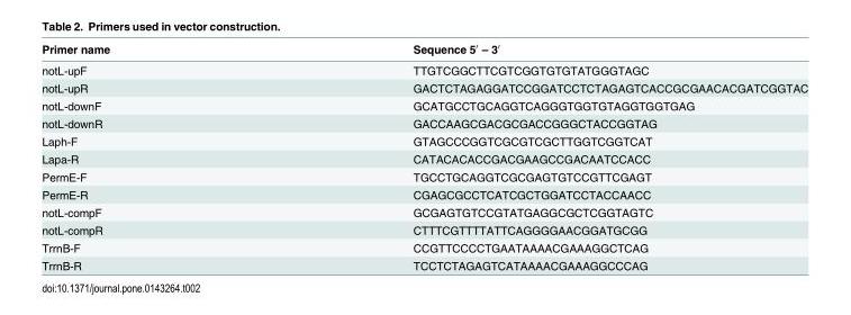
<table><thead><tr><td>Primer name</td><td>Sequence 5′ – 3′</td></tr></thead><tbody><tr><td>notL-upF</td><td>TTGTCGGCTTCGTCGGTGTGTATGGGTAGC</td></tr><tr><td>notL-upR</td><td>GACTCTAGAGGATCCGGATCCTCTAGAGTCACCGCGAACACGATCGGTAC</td></tr><tr><td>notL-downF</td><td>GCATGCCTGCAGGTCAGGGTGGTGTAGGTGGTGAG</td></tr><tr><td>notL-downR</td><td>GACCAAGCGACGCGACCGGGCTACCGGTAG</td></tr><tr><td>Laph-F</td><td>GTAGCCCGGTCGCGTCGCTTGGTCGGTCAT</td></tr><tr><td>Lapa-R</td><td>CATACACACCGACGAAGCCGACAATCCACC</td></tr><tr><td>PermE-F</td><td>TGCCTGCAGGTCGCGAGTGTCCGTTCGAGT</td></tr><tr><td>PermE-R</td><td>CGAGCGCCTCATCGCTGGATCCTACCAACC</td></tr><tr><td>notL-compF</td><td>GCGAGTGTCCGTATGAGGCGCTCGGTAGTC</td></tr><tr><td>notL-compR</td><td>CTTTCGTTTTATTCAGGGGAACGGATGCGG</td></tr><tr><td>TrrnB-F</td><td>CCGTTCCCCTGAATAAAACGAAAGGCTCAG</td></tr><tr><td>TrrnB-R</td><td>TCCTCTAGAGTCATAAAACGAAAGGCCCAG</td></tr></tbody></table>